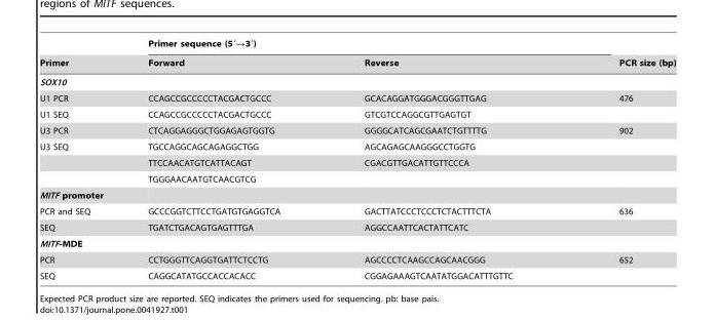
<table><thead><tr><td rowspan="2">Primer</td><td colspan="2">Primer sequence (5′→3′)</td><td rowspan="2">PCR size (bp)</td></tr><tr><td>Forward</td><td>Reverse</td></tr></thead><tbody><tr><td colspan="4">SOX10</td></tr><tr><td>U1 PCR</td><td>CCAGCCGCCCCCTACGACTGCCC</td><td>GCACAGGATGGGACGGGTTGAG</td><td>476</td></tr><tr><td>U1 SEQ</td><td>CCAGCCGCCCCCTACGACTGCCC</td><td>GTCGTCCAGGCGTTGAGTGT</td><td></td></tr><tr><td>U3 PCR</td><td>CTCAGGAGGGCTGGAGAGTGGTG</td><td>GGGGCATCAGCGAATCTGTTTTG</td><td>902</td></tr><tr><td rowspan="3">U3 SEQ</td><td>TGCCAGGCAGCAGAGGCTGG</td><td>AGCAGAGCAAGGGCCTGGTG</td><td></td></tr><tr><td>TTCCAACATGTCATTACAGT</td><td>CGACGTTGACATTGTTCCCA</td><td></td></tr><tr><td>TGGGAACAATGTCAACGTCG</td><td></td><td></td></tr><tr><td colspan="4">MITF promoter</td></tr><tr><td>PCR and SEQ</td><td>GCCCGGTCTTCCTGATGTGAGGTCA</td><td>GACTTATCCCTCCCTCTACTTTCTA</td><td>636</td></tr><tr><td>SEQ</td><td>TGATCTGACAGTGAGTTTGA</td><td>AGGCCAATTCACTATTCATC</td><td></td></tr><tr><td colspan="4">MITF-MDE</td></tr><tr><td>PCR</td><td>CCTGGGTTCAGGTGATTCTCCTG</td><td>AGCCCCTCAAGCCAGCAACGGG</td><td>652</td></tr><tr><td>SEQ</td><td>CAGGCATATGCCACCACACC</td><td>CGGAGAAAGTCAATATGGACATTTGTTC</td><td></td></tr></tbody></table>